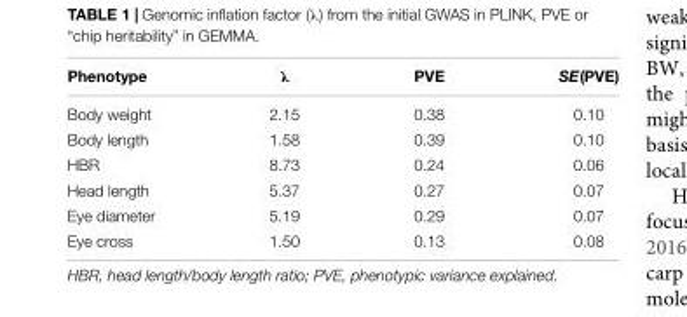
<table><thead><tr><td>Phenotype</td><td>λ</td><td>PVE</td><td>SE(PVE)</td></tr></thead><tbody><tr><td>Body weight</td><td>2.15</td><td>0.38</td><td>0.10</td></tr><tr><td>Body length</td><td>1.58</td><td>0.39</td><td>0.10</td></tr><tr><td>HBR</td><td>8.73</td><td>0.24</td><td>0.06</td></tr><tr><td>Head length</td><td>5.37</td><td>0.27</td><td>0.07</td></tr><tr><td>Eye diameter</td><td>5.19</td><td>0.29</td><td>0.07</td></tr><tr><td>Eye cross</td><td>1.50</td><td>0.13</td><td>0.08</td></tr></tbody></table>